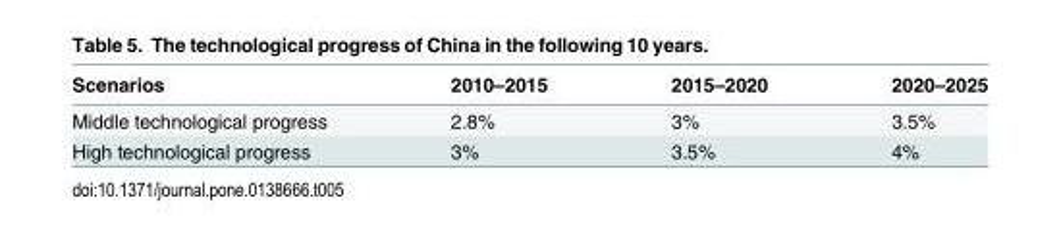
<table><thead><tr><td>Scenarios</td><td>2010–2015</td><td>2015–2020</td><td>2020–2025</td></tr></thead><tbody><tr><td>Middle technological progress</td><td>2.8%</td><td>3%</td><td>3.5%</td></tr><tr><td>High technological progress</td><td>3%</td><td>3.5%</td><td>4%</td></tr></tbody></table>